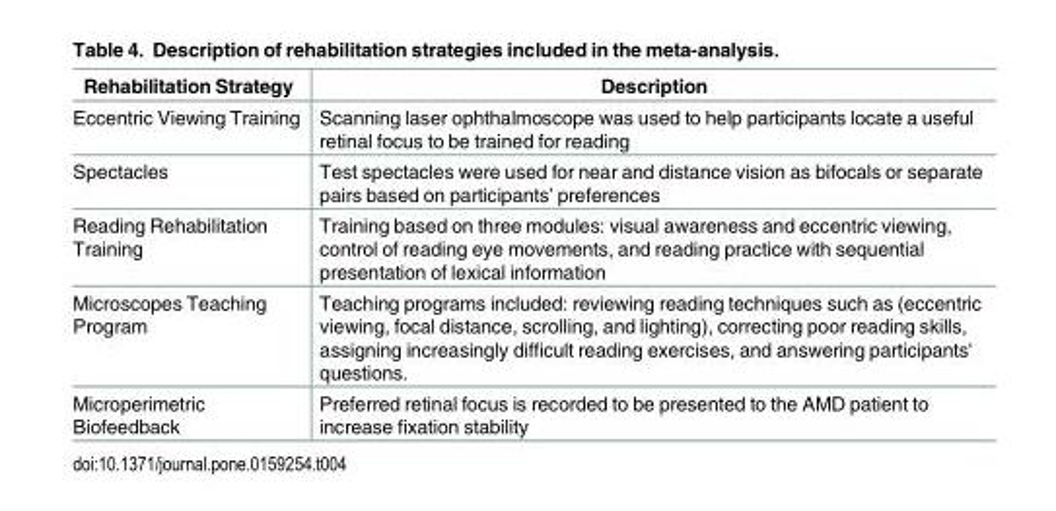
<table><thead><tr><td>Rehabilitation Strategy</td><td>Description</td></tr></thead><tbody><tr><td>Eccentric Viewing Training</td><td>Scanning laser ophthalmoscope was used to help participants locate a useful retinal focus to be trained for reading</td></tr><tr><td>Spectacles</td><td>Test spectacles were used for near and distance vision as bifocals or separate pairs based on participants’ preferences</td></tr><tr><td>Reading Rehabilitation Training</td><td>Training based on three modules: visual awareness and eccentric viewing, control of reading eye movements, and reading practice with sequential presentation of lexical information</td></tr><tr><td>Microscopes Teaching Program</td><td>Teaching programs included: reviewing reading techniques such as (eccentric viewing, focal distance, scrolling, and lighting), correcting poor reading skills, assigning increasingly difficult reading exercises, and answering participants&#x27; questions.</td></tr><tr><td>Microperimetric Biofeedback</td><td>Preferred retinal focus is recorded to be presented to the AMD patient to increase fixation stability</td></tr></tbody></table>